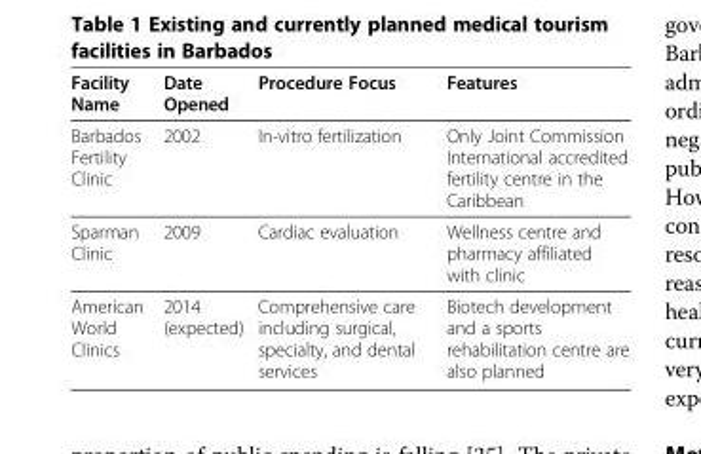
<table><thead><tr><td>Facility Name</td><td>Date Opened</td><td>Procedure Focus</td><td>Features</td></tr></thead><tbody><tr><td>Barbados Fertility Clinic</td><td>2002</td><td>In-vitro fertilization</td><td>Only Joint Commission International accredited fertility centre in the Caribbean</td></tr><tr><td>Sparman Clinic</td><td>2009</td><td>Cardiac evaluation</td><td>Wellness centre and pharmacy affiliated with clinic</td></tr><tr><td>American World Clinics</td><td>2014 (expected)</td><td>Comprehensive care including surgical, specialty, and dental services</td><td>Biotech development and a sports rehabilitation centre are also planned</td></tr></tbody></table>